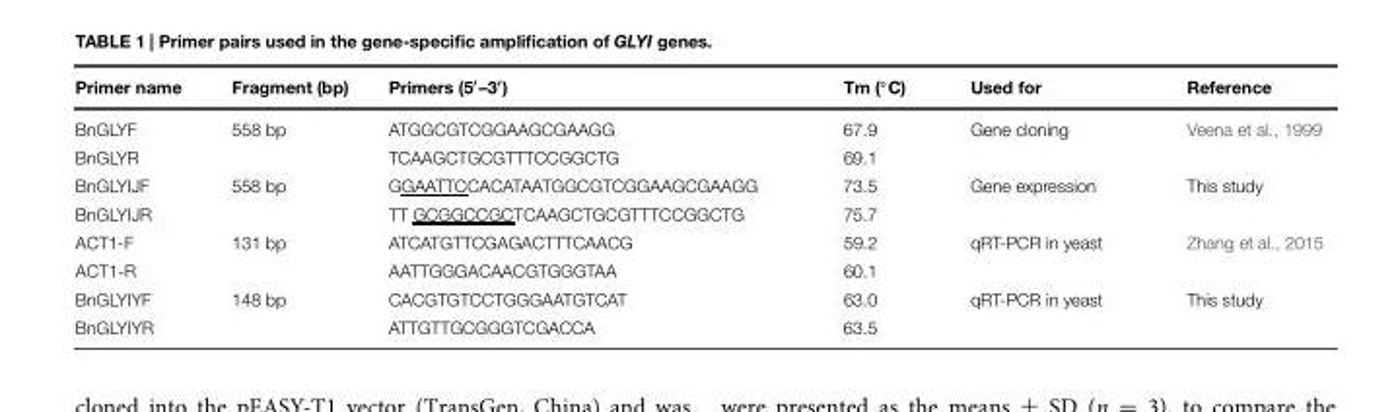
<table><thead><tr><td>Primer name</td><td>Fragment (bp)</td><td>Primers (5′–3′)</td><td>Tm (◦C)</td><td>Used for</td><td>Reference</td></tr></thead><tbody><tr><td>BnGLYF</td><td>558 bp</td><td>ATGGCGTCGGAAGCGAAGG</td><td>67.9</td><td>Gene cloning</td><td>Veena et al., 1999</td></tr><tr><td>BnGLYR</td><td></td><td>TCAAGCTGCGTTTCCGGCTG</td><td>69.1</td><td></td><td></td></tr><tr><td>BnGLYIJF</td><td>558 bp</td><td>GGAATTCCACATAATGGCGTCGGAAGCGAAGG</td><td>73.5</td><td>Gene expression</td><td>This study</td></tr><tr><td>BnGLYIJR</td><td></td><td>TT GCGGCCGCTCAAGCTGCGTTTCCGGCTG</td><td>75.7</td><td></td><td></td></tr><tr><td>ACT1-F</td><td>131 bp</td><td>ATCATGTTCGAGACTTTCAACG</td><td>59.2</td><td>qRT-PCR in yeast</td><td>Zhang et al., 2015</td></tr><tr><td>ACT1-R</td><td></td><td>AATTGGGACAACGTGGGTAA</td><td>60.1</td><td></td><td></td></tr><tr><td>BnGLYIYF</td><td>148 bp</td><td>CACGTGTCCTGGGAATGTCAT</td><td>63.0</td><td>qRT-PCR in yeast</td><td>This study</td></tr><tr><td>BnGLYIYR</td><td></td><td>ATTGTTGCGGGTCGACCA</td><td>63.5</td><td></td><td></td></tr></tbody></table>